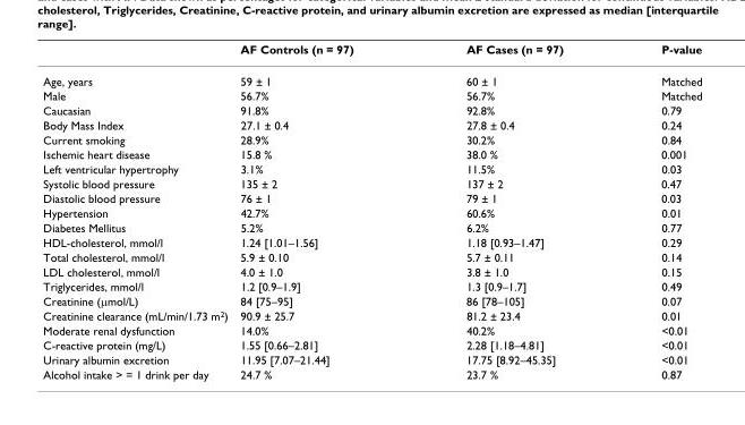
<table><thead><tr><td></td><td>AF Controls (n = 97)</td><td>AF Cases (n = 97)</td><td>P-value</td></tr></thead><tbody><tr><td>Age, years</td><td>59 ± 1</td><td>60 ± 1</td><td>Matched</td></tr><tr><td>Male</td><td>56.7%</td><td>56.7%</td><td>Matched</td></tr><tr><td>Caucasian</td><td>91.8%</td><td>92.8%</td><td>0.79</td></tr><tr><td>Body Mass Index</td><td>27.1 ± 0.4</td><td>27.8 ± 0.4</td><td>0.24</td></tr><tr><td>Current smoking</td><td>28.9%</td><td>30.2%</td><td>0.84</td></tr><tr><td>Ischemic heart disease</td><td>15.8 %</td><td>38.0 %</td><td>0.001</td></tr><tr><td>Left ventricular hypertrophy</td><td>3.1%</td><td>11.5%</td><td>0.03</td></tr><tr><td>Systolic blood pressure</td><td>135 ± 2</td><td>137 ± 2</td><td>0.47</td></tr><tr><td>Diastolic blood pressure</td><td>76 ± 1</td><td>79 ± 1</td><td>0.03</td></tr><tr><td>Hypertension</td><td>42.7%</td><td>60.6%</td><td>0.01</td></tr><tr><td>Diabetes Mellitus</td><td>5.2%</td><td>6.2%</td><td>0.77</td></tr><tr><td>HDL-cholesterol, mmol/l</td><td>1.24 [1.01–1.56]</td><td>1.18 [0.93–1.47]</td><td>0.29</td></tr><tr><td>Total cholesterol, mmol/l</td><td>5.9 ± 0.10</td><td>5.7 ± 0.11</td><td>0.14</td></tr><tr><td>LDL cholesterol, mmol/l</td><td>4.0 ± 1.0</td><td>3.8 ± 1.0</td><td>0.15</td></tr><tr><td>Triglycerides, mmol/l</td><td>1.2 [0.9–1.9]</td><td>1.3 [0.9–1.7]</td><td>0.49</td></tr><tr><td>Creatinine (µmol/L)</td><td>84 [75–95]</td><td>86 [78–105]</td><td>0.07</td></tr><tr><td>Creatinine clearance (mL/min/1.73 m<sup>2</sup>)</td><td>90.9 ± 25.7</td><td>81.2 ± 23.4</td><td>0.01</td></tr><tr><td>Moderate renal dysfunction</td><td>14.0%</td><td>40.2%</td><td>&lt;0.01</td></tr><tr><td>C-reactive protein (mg/L)</td><td>1.55 [0.66–2.81]</td><td>2.28 [1.18–4.81]</td><td>&lt;0.01</td></tr><tr><td>Urinary albumin excretion</td><td>11.95 [7.07–21.44]</td><td>17.75 [8.92–45.35]</td><td>&lt;0.01</td></tr><tr><td>Alcohol intake &gt; = 1 drink per day</td><td>24.7 %</td><td>23.7 %</td><td>0.87</td></tr></tbody></table>